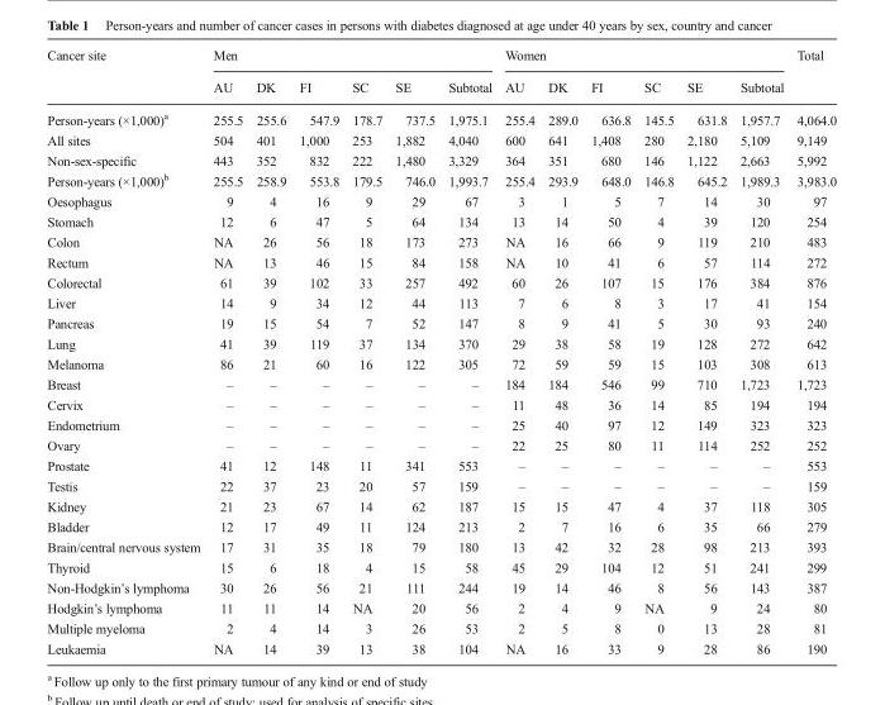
<table><thead><tr><td rowspan="2">Cancer site</td><td colspan="6">Men</td><td colspan="6">Women</td><td rowspan="2">Total</td></tr><tr><td>AU</td><td>DK</td><td>FI</td><td>SC</td><td>SE</td><td>Subtotal</td><td>AU</td><td>DK</td><td>FI</td><td>SC</td><td>SE</td><td>Subtotal</td></tr></thead><tbody><tr><td>Person-years (×1,000)<sup>a</sup></td><td>255.5</td><td>255.6</td><td>547.9</td><td>178.7</td><td>737.5</td><td>1,975.1</td><td>255.4</td><td>289.0</td><td>636.8</td><td>145.5</td><td>631.8</td><td>1,957.7</td><td>4,064.0</td></tr><tr><td>All sites</td><td>504</td><td>401</td><td>1,000</td><td>253</td><td>1,882</td><td>4,040</td><td>600</td><td>641</td><td>1,408</td><td>280</td><td>2,180</td><td>5,109</td><td>9,149</td></tr><tr><td>Non-sex-specific</td><td>443</td><td>352</td><td>832</td><td>222</td><td>1,480</td><td>3,329</td><td>364</td><td>351</td><td>680</td><td>146</td><td>1,122</td><td>2,663</td><td>5,992</td></tr><tr><td>Person-years (×1,000)<sup>b</sup></td><td>255.5</td><td>258.9</td><td>553.8</td><td>179.5</td><td>746.0</td><td>1,993.7</td><td>255.4</td><td>293.9</td><td>648.0</td><td>146.8</td><td>645.2</td><td>1,989.3</td><td>3,983.0</td></tr><tr><td>Oesophagus</td><td>9</td><td>4</td><td>16</td><td>9</td><td>29</td><td>67</td><td>3</td><td>1</td><td>5</td><td>7</td><td>14</td><td>30</td><td>97</td></tr><tr><td>Stomach</td><td>12</td><td>6</td><td>47</td><td>5</td><td>64</td><td>134</td><td>13</td><td>14</td><td>50</td><td>4</td><td>39</td><td>120</td><td>254</td></tr><tr><td>Colon</td><td>NA</td><td>26</td><td>56</td><td>18</td><td>173</td><td>273</td><td>NA</td><td>16</td><td>66</td><td>9</td><td>119</td><td>210</td><td>483</td></tr><tr><td>Rectum</td><td>NA</td><td>13</td><td>46</td><td>15</td><td>84</td><td>158</td><td>NA</td><td>10</td><td>41</td><td>6</td><td>57</td><td>114</td><td>272</td></tr><tr><td>Colorectal</td><td>61</td><td>39</td><td>102</td><td>33</td><td>257</td><td>492</td><td>60</td><td>26</td><td>107</td><td>15</td><td>176</td><td>384</td><td>876</td></tr><tr><td>Liver</td><td>14</td><td>9</td><td>34</td><td>12</td><td>44</td><td>113</td><td>7</td><td>6</td><td>8</td><td>3</td><td>17</td><td>41</td><td>154</td></tr><tr><td>Pancreas</td><td>19</td><td>15</td><td>54</td><td>7</td><td>52</td><td>147</td><td>8</td><td>9</td><td>41</td><td>5</td><td>30</td><td>93</td><td>240</td></tr><tr><td>Lung</td><td>41</td><td>39</td><td>119</td><td>37</td><td>134</td><td>370</td><td>29</td><td>38</td><td>58</td><td>19</td><td>128</td><td>272</td><td>642</td></tr><tr><td>Melanoma</td><td>86</td><td>21</td><td>60</td><td>16</td><td>122</td><td>305</td><td>72</td><td>59</td><td>59</td><td>15</td><td>103</td><td>308</td><td>613</td></tr><tr><td>Breast</td><td>–</td><td>–</td><td>–</td><td>–</td><td>–</td><td>–</td><td>184</td><td>184</td><td>546</td><td>99</td><td>710</td><td>1,723</td><td>1,723</td></tr><tr><td>Cervix</td><td>–</td><td>–</td><td>–</td><td>–</td><td>–</td><td>–</td><td>11</td><td>48</td><td>36</td><td>14</td><td>85</td><td>194</td><td>194</td></tr><tr><td>Endometrium</td><td>–</td><td>–</td><td>–</td><td>–</td><td>–</td><td>–</td><td>25</td><td>40</td><td>97</td><td>12</td><td>149</td><td>323</td><td>323</td></tr><tr><td>Ovary</td><td>–</td><td>–</td><td>–</td><td>–</td><td>–</td><td>–</td><td>22</td><td>25</td><td>80</td><td>11</td><td>114</td><td>252</td><td>252</td></tr><tr><td>Prostate</td><td>41</td><td>12</td><td>148</td><td>11</td><td>341</td><td>553</td><td>–</td><td>–</td><td>–</td><td>–</td><td>–</td><td>–</td><td>553</td></tr><tr><td>Testis</td><td>22</td><td>37</td><td>23</td><td>20</td><td>57</td><td>159</td><td>–</td><td>–</td><td>–</td><td>–</td><td>–</td><td>–</td><td>159</td></tr><tr><td>Kidney</td><td>21</td><td>23</td><td>67</td><td>14</td><td>62</td><td>187</td><td>15</td><td>15</td><td>47</td><td>4</td><td>37</td><td>118</td><td>305</td></tr><tr><td>Bladder</td><td>12</td><td>17</td><td>49</td><td>11</td><td>124</td><td>213</td><td>2</td><td>7</td><td>16</td><td>6</td><td>35</td><td>66</td><td>279</td></tr><tr><td>Brain/central nervous system</td><td>17</td><td>31</td><td>35</td><td>18</td><td>79</td><td>180</td><td>13</td><td>42</td><td>32</td><td>28</td><td>98</td><td>213</td><td>393</td></tr><tr><td>Thyroid</td><td>15</td><td>6</td><td>18</td><td>4</td><td>15</td><td>58</td><td>45</td><td>29</td><td>104</td><td>12</td><td>51</td><td>241</td><td>299</td></tr><tr><td>Non-Hodgkin’s lymphoma</td><td>30</td><td>26</td><td>56</td><td>21</td><td>111</td><td>244</td><td>19</td><td>14</td><td>46</td><td>8</td><td>56</td><td>143</td><td>387</td></tr><tr><td>Hodgkin’s lymphoma</td><td>11</td><td>11</td><td>14</td><td>NA</td><td>20</td><td>56</td><td>2</td><td>4</td><td>9</td><td>NA</td><td>9</td><td>24</td><td>80</td></tr><tr><td>Multiple myeloma</td><td>2</td><td>4</td><td>14</td><td>3</td><td>26</td><td>53</td><td>2</td><td>5</td><td>8</td><td>0</td><td>13</td><td>28</td><td>81</td></tr><tr><td>Leukaemia</td><td>NA</td><td>14</td><td>39</td><td>13</td><td>38</td><td>104</td><td>NA</td><td>16</td><td>33</td><td>9</td><td>28</td><td>86</td><td>190</td></tr></tbody></table>